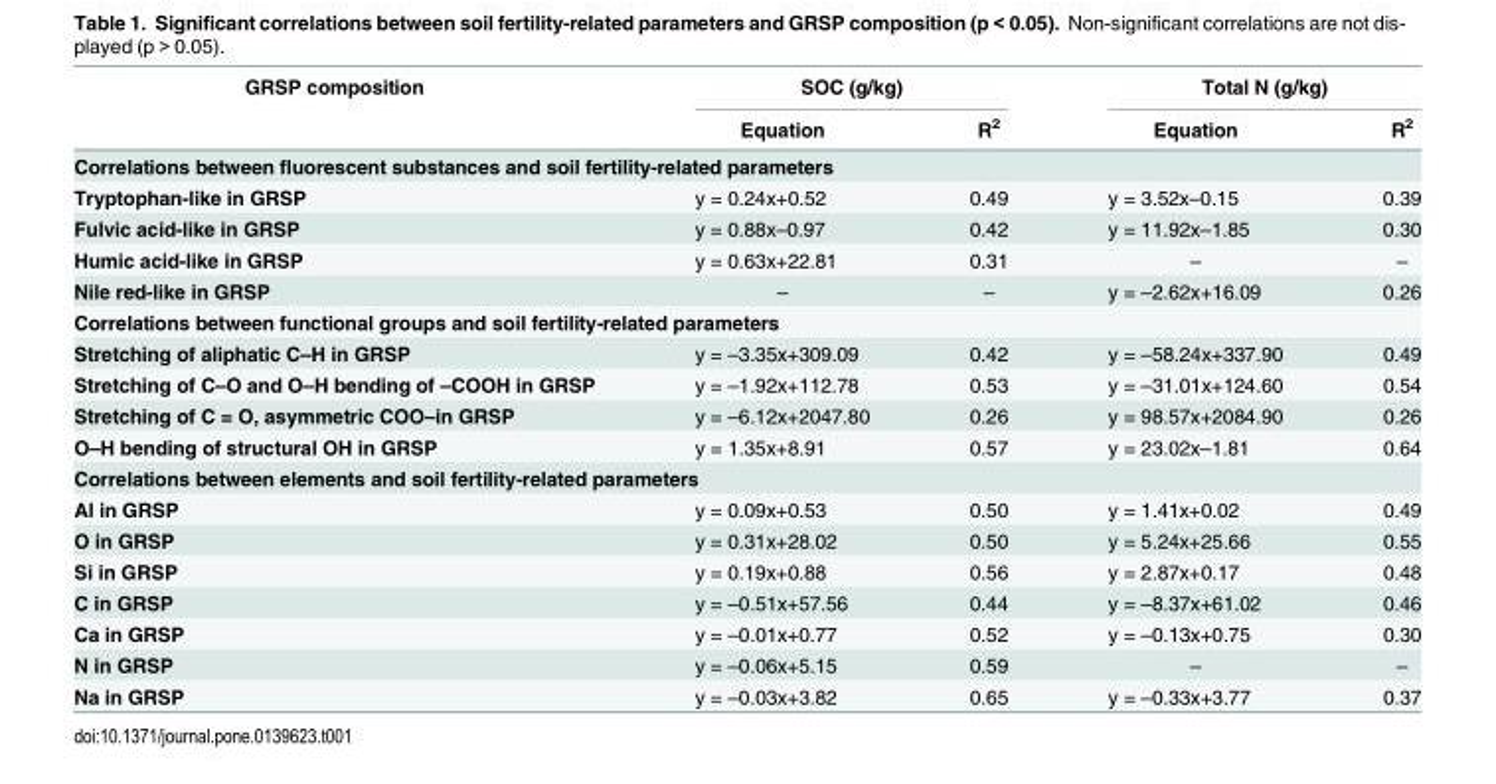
<table><thead><tr><td rowspan="2">GRSP composition</td><td colspan="2">SOC (g/kg)</td><td colspan="2">Total N (g/kg)</td></tr><tr><td>Equation</td><td>R<sup>2</sup></td><td>Equation</td><td>R<sup>2</sup></td></tr></thead><tbody><tr><td colspan="5">Correlations between fluorescent substances and soil fertility-related parameters</td></tr><tr><td>Tryptophan-like in GRSP</td><td>y = 0.24x+0.52</td><td>0.49</td><td>y = 3.52x–0.15</td><td>0.39</td></tr><tr><td>Fulvic acid-like in GRSP</td><td>y = 0.88x–0.97</td><td>0.42</td><td>y = 11.92x–1.85</td><td>0.30</td></tr><tr><td>Humic acid-like in GRSP</td><td>y = 0.63x+22.81</td><td>0.31</td><td>–</td><td>–</td></tr><tr><td>Nile red-like in GRSP</td><td>–</td><td>–</td><td>y = –2.62x+16.09</td><td>0.26</td></tr><tr><td colspan="5">Correlations between functional groups and soil fertility-related parameters</td></tr><tr><td>Stretching of aliphatic C–H in GRSP</td><td>y = –3.35x+309.09</td><td>0.42</td><td>y = –58.24x+337.90</td><td>0.49</td></tr><tr><td>Stretching of C–O and O–H bending of –COOH in GRSP</td><td>y = –1.92x+112.78</td><td>0.53</td><td>y = –31.01x+124.60</td><td>0.54</td></tr><tr><td>Stretching of C = O, asymmetric COO–in GRSP</td><td>y = –6.12x+2047.80</td><td>0.26</td><td>y = 98.57x+2084.90</td><td>0.26</td></tr><tr><td>O–H bending of structural OH in GRSP</td><td>y = 1.35x+8.91</td><td>0.57</td><td>y = 23.02x–1.81</td><td>0.64</td></tr><tr><td colspan="5">Correlations between elements and soil fertility-related parameters</td></tr><tr><td>Al in GRSP</td><td>y = 0.09x+0.53</td><td>0.50</td><td>y = 1.41x+0.02</td><td>0.49</td></tr><tr><td>O in GRSP</td><td>y = 0.31x+28.02</td><td>0.50</td><td>y = 5.24x+25.66</td><td>0.55</td></tr><tr><td>Si in GRSP</td><td>y = 0.19x+0.88</td><td>0.56</td><td>y = 2.87x+0.17</td><td>0.48</td></tr><tr><td>C in GRSP</td><td>y = –0.51x+57.56</td><td>0.44</td><td>y = –8.37x+61.02</td><td>0.46</td></tr><tr><td>Ca in GRSP</td><td>y = –0.01x+0.77</td><td>0.52</td><td>y = –0.13x+0.75</td><td>0.30</td></tr><tr><td>N in GRSP</td><td>y = –0.06x+5.15</td><td>0.59</td><td>–</td><td>–</td></tr><tr><td>Na in GRSP</td><td>y = –0.03x+3.82</td><td>0.65</td><td>y = –0.33x+3.77</td><td>0.37</td></tr></tbody></table>